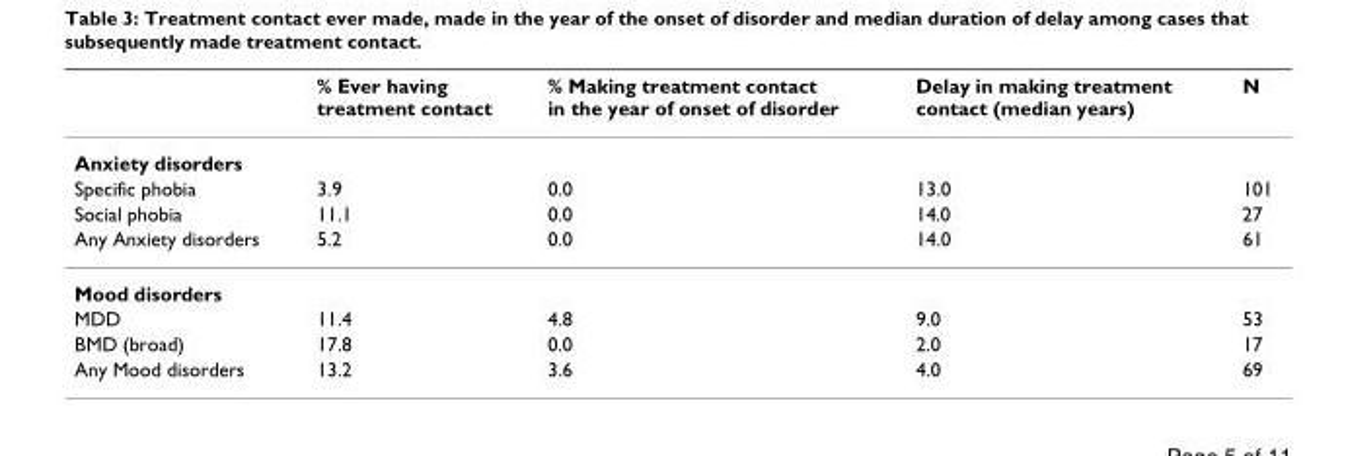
<table><thead><tr><td></td><td>% Ever having treatment contact</td><td>% Making treatment contact in the year of onset of disorder</td><td>Delay in making treatment contact (median years)</td><td>N</td></tr></thead><tbody><tr><td colspan="5">Anxiety disorders</td></tr><tr><td>Specific phobia</td><td>3.9</td><td>0.0</td><td>13.0</td><td>101</td></tr><tr><td>Social phobia</td><td>11.1</td><td>0.0</td><td>14.0</td><td>27</td></tr><tr><td>Any Anxiety disorders</td><td>5.2</td><td>0.0</td><td>14.0</td><td>61</td></tr><tr><td colspan="5">Mood disorders</td></tr><tr><td>MDD</td><td>11.4</td><td>4.8</td><td>9.0</td><td>53</td></tr><tr><td>BMD (broad)</td><td>17.8</td><td>0.0</td><td>2.0</td><td>17</td></tr><tr><td>Any Mood disorders</td><td>13.2</td><td>3.6</td><td>4.0</td><td>69</td></tr></tbody></table>